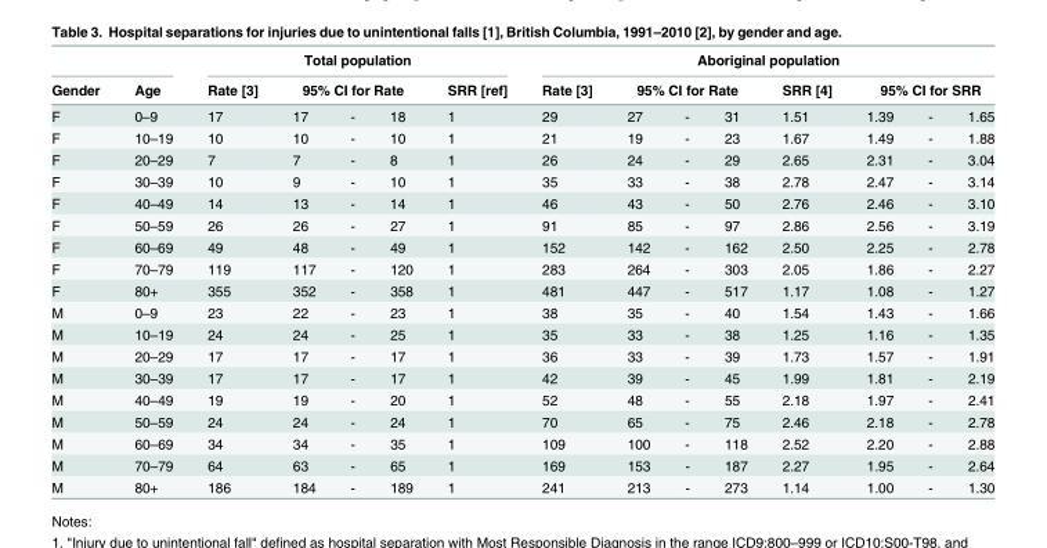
<table><thead><tr><td rowspan="3">Gender F</td><td rowspan="3">Age 0–9</td><td colspan="5">Total population</td><td colspan="8">Aboriginal population</td></tr><tr><td rowspan="2">Rate [3] 17</td><td colspan="3">95% CI for Rate</td><td rowspan="2">SRR [ref] 1</td><td rowspan="2">Rate [3] 29</td><td colspan="3">95% CI for Rate</td><td rowspan="2">SRR [4] 1.51</td><td colspan="3">95% CI for SRR</td></tr><tr><td>17</td><td>-</td><td>18</td><td>27</td><td>-</td><td>31</td><td>1.39</td><td>-</td><td>1.65</td></tr></thead><tbody><tr><td>F</td><td>10–19</td><td>10</td><td>10</td><td>-</td><td>10</td><td>1</td><td>21</td><td>19</td><td>-</td><td>23</td><td>1.67</td><td>1.49</td><td>-</td><td>1.88</td></tr><tr><td>F</td><td>20–29</td><td>7</td><td>7</td><td>-</td><td>8</td><td>1</td><td>26</td><td>24</td><td>-</td><td>29</td><td>2.65</td><td>2.31</td><td>-</td><td>3.04</td></tr><tr><td>F</td><td>30–39</td><td>10</td><td>9</td><td>-</td><td>10</td><td>1</td><td>35</td><td>33</td><td>-</td><td>38</td><td>2.78</td><td>2.47</td><td>-</td><td>3.14</td></tr><tr><td>F</td><td>40–49</td><td>14</td><td>13</td><td>-</td><td>14</td><td>1</td><td>46</td><td>43</td><td>-</td><td>50</td><td>2.76</td><td>2.46</td><td>-</td><td>3.10</td></tr><tr><td>F</td><td>50–59</td><td>26</td><td>26</td><td>-</td><td>27</td><td>1</td><td>91</td><td>85</td><td>-</td><td>97</td><td>2.86</td><td>2.56</td><td>-</td><td>3.19</td></tr><tr><td>F</td><td>60–69</td><td>49</td><td>48</td><td>-</td><td>49</td><td>1</td><td>152</td><td>142</td><td>-</td><td>162</td><td>2.50</td><td>2.25</td><td>-</td><td>2.78</td></tr><tr><td>F</td><td>70–79</td><td>119</td><td>117</td><td>-</td><td>120</td><td>1</td><td>283</td><td>264</td><td>-</td><td>303</td><td>2.05</td><td>1.86</td><td>-</td><td>2.27</td></tr><tr><td>F</td><td>80+</td><td>355</td><td>352</td><td>-</td><td>358</td><td>1</td><td>481</td><td>447</td><td>-</td><td>517</td><td>1.17</td><td>1.08</td><td>-</td><td>1.27</td></tr><tr><td>M</td><td>0–9</td><td>23</td><td>22</td><td>-</td><td>23</td><td>1</td><td>38</td><td>35</td><td>-</td><td>40</td><td>1.54</td><td>1.43</td><td>-</td><td>1.66</td></tr><tr><td>M</td><td>10–19</td><td>24</td><td>24</td><td>-</td><td>25</td><td>1</td><td>35</td><td>33</td><td>-</td><td>38</td><td>1.25</td><td>1.16</td><td>-</td><td>1.35</td></tr><tr><td>M</td><td>20–29</td><td>17</td><td>17</td><td>-</td><td>17</td><td>1</td><td>36</td><td>33</td><td>-</td><td>39</td><td>1.73</td><td>1.57</td><td>-</td><td>1.91</td></tr><tr><td>M</td><td>30–39</td><td>17</td><td>17</td><td>-</td><td>17</td><td>1</td><td>42</td><td>39</td><td>-</td><td>45</td><td>1.99</td><td>1.81</td><td>-</td><td>2.19</td></tr><tr><td>M</td><td>40–49</td><td>19</td><td>19</td><td>-</td><td>20</td><td>1</td><td>52</td><td>48</td><td>-</td><td>55</td><td>2.18</td><td>1.97</td><td>-</td><td>2.41</td></tr><tr><td>M</td><td>50–59</td><td>24</td><td>24</td><td>-</td><td>24</td><td>1</td><td>70</td><td>65</td><td>-</td><td>75</td><td>2.46</td><td>2.18</td><td>-</td><td>2.78</td></tr><tr><td>M</td><td>60–69</td><td>34</td><td>34</td><td>-</td><td>35</td><td>1</td><td>109</td><td>100</td><td>-</td><td>118</td><td>2.52</td><td>2.20</td><td>-</td><td>2.88</td></tr><tr><td>M</td><td>70–79</td><td>64</td><td>63</td><td>-</td><td>65</td><td>1</td><td>169</td><td>153</td><td>-</td><td>187</td><td>2.27</td><td>1.95</td><td>-</td><td>2.64</td></tr><tr><td>M</td><td>80+</td><td>186</td><td>184</td><td>-</td><td>189</td><td>1</td><td>241</td><td>213</td><td>-</td><td>273</td><td>1.14</td><td>1.00</td><td>-</td><td>1.30</td></tr></tbody></table>